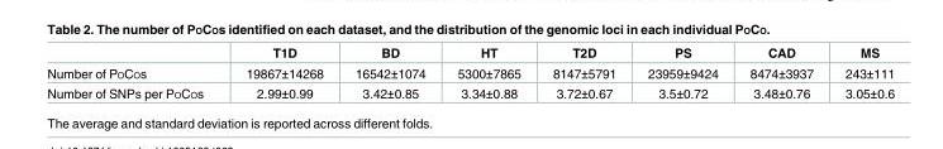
<table><thead><tr><td></td><td>T1D</td><td>BD</td><td>HT</td><td>T2D</td><td>PS</td><td>CAD</td><td>MS</td></tr></thead><tbody><tr><td>Number of POCOs</td><td>19867±14268</td><td>16542±1074</td><td>5300±7865</td><td>8147±5791</td><td>23959±9424</td><td>8474±3937</td><td>243±111</td></tr><tr><td>Number of SNPs per POCOs</td><td>2.99±0.99</td><td>3.42±0.85</td><td>3.34±0.88</td><td>3.72±0.67</td><td>3.5±0.72</td><td>3.48±0.76</td><td>3.05±0.6</td></tr></tbody></table>